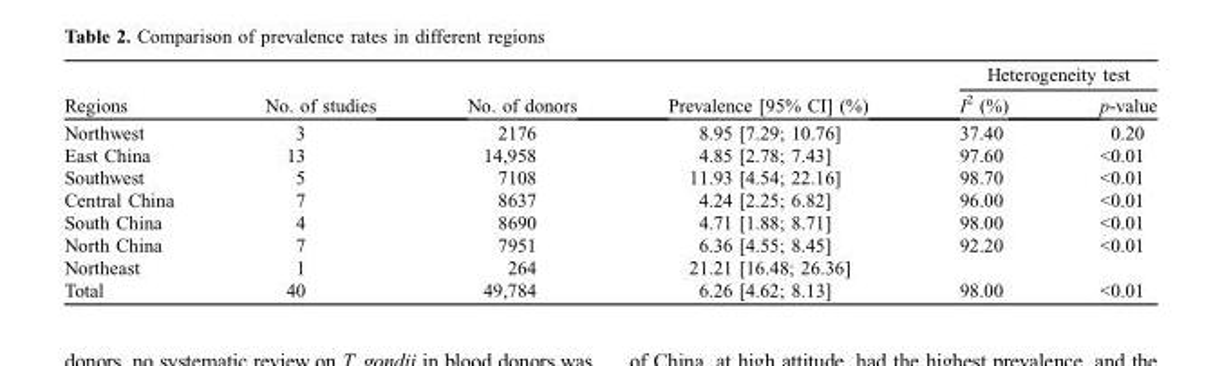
<table><thead><tr><td rowspan="2">Regions</td><td rowspan="2">No. of studies</td><td rowspan="2">No. of donors</td><td rowspan="2">Prevalence [95% CI] (%)</td><td colspan="2">Heterogeneity test</td></tr><tr><td>I<sup>2</sup> (%)</td><td>p-value</td></tr></thead><tbody><tr><td>Northwest</td><td>3</td><td>2176</td><td>8.95 [7.29; 10.76]</td><td>37.40</td><td>0.20</td></tr><tr><td>East China</td><td>13</td><td>14,958</td><td>4.85 [2.78; 7.43]</td><td>97.60</td><td>&lt;0.01</td></tr><tr><td>Southwest</td><td>5</td><td>7108</td><td>11.93 [4.54; 22.16]</td><td>98.70</td><td>&lt;0.01</td></tr><tr><td>Central China</td><td>7</td><td>8637</td><td>4.24 [2.25; 6.82]</td><td>96.00</td><td>&lt;0.01</td></tr><tr><td>South China</td><td>4</td><td>8690</td><td>4.71 [1.88; 8.71]</td><td>98.00</td><td>&lt;0.01</td></tr><tr><td>North China</td><td>7</td><td>7951</td><td>6.36 [4.55; 8.45]</td><td>92.20</td><td>&lt;0.01</td></tr><tr><td>Northeast</td><td>1</td><td>264</td><td>21.21 [16.48; 26.36]</td><td></td><td></td></tr><tr><td>Total</td><td>40</td><td>49,784</td><td>6.26 [4.62; 8.13]</td><td>98.00</td><td>&lt;0.01</td></tr></tbody></table>